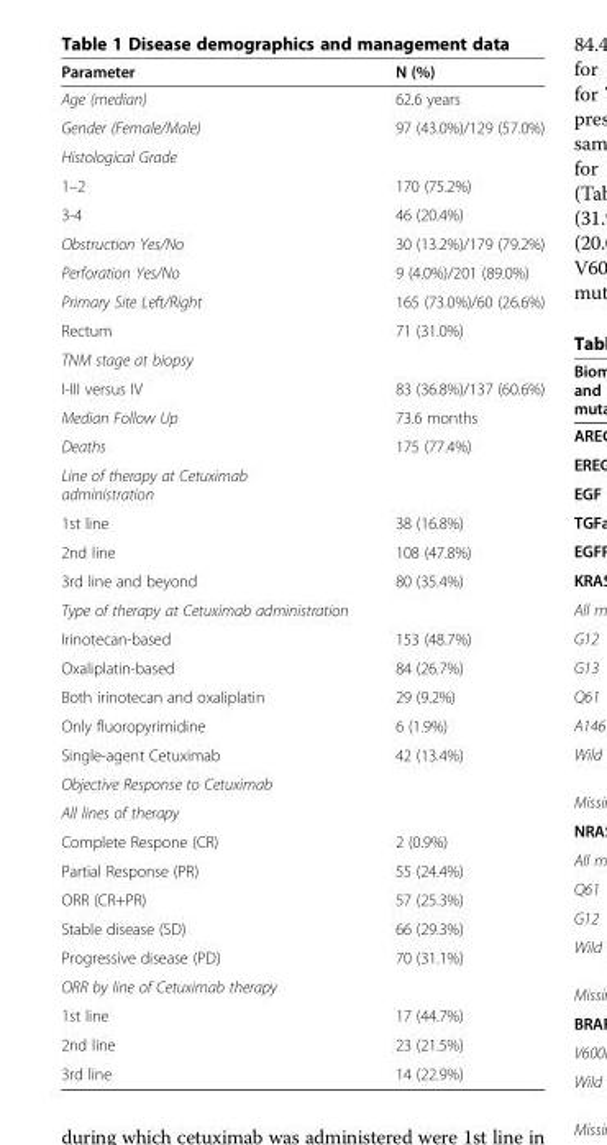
<table><thead><tr><td>Parameter</td><td>N (%)</td></tr></thead><tbody><tr><td>Age (median)</td><td>62.6 years</td></tr><tr><td>Gender (Female/Male)</td><td>97 (43.0%)/129 (57.0%)</td></tr><tr><td colspan="2">Histological Grade</td></tr><tr><td>1–2</td><td>170 (75.2%)</td></tr><tr><td>3-4</td><td>46 (20.4%)</td></tr><tr><td>Obstruction Yes/No</td><td>30 (13.2%)/179 (79.2%)</td></tr><tr><td>Perforation Yes/No</td><td>9 (4.0%)/201 (89.0%)</td></tr><tr><td>Primary Site Left/Right</td><td>165 (73.0%)/60 (26.6%)</td></tr><tr><td>Rectum</td><td>71 (31.0%)</td></tr><tr><td colspan="2">TNM stage at biopsy</td></tr><tr><td>I-III versus IV</td><td>83 (36.8%)/137 (60.6%)</td></tr><tr><td>Median Follow Up</td><td>73.6 months</td></tr><tr><td>Deaths</td><td>175 (77.4%)</td></tr><tr><td colspan="2">Line of therapy at Cetuximab administration</td></tr><tr><td>1st line</td><td>38 (16.8%)</td></tr><tr><td>2nd line</td><td>108 (47.8%)</td></tr><tr><td>3rd line and beyond</td><td>80 (35.4%)</td></tr><tr><td colspan="2">Type of therapy at Cetuximab administration</td></tr><tr><td>Irinotecan-based</td><td>153 (48.7%)</td></tr><tr><td>Oxaliplatin-based</td><td>84 (26.7%)</td></tr><tr><td>Both irinotecan and oxaliplatin</td><td>29 (9.2%)</td></tr><tr><td>Only fluoropyrimidine</td><td>6 (1.9%)</td></tr><tr><td>Single-agent Cetuximab</td><td>42 (13.4%)</td></tr><tr><td colspan="2">Objective Response to Cetuximab</td></tr><tr><td colspan="2">All lines of therapy</td></tr><tr><td>Complete Respone (CR)</td><td>2 (0.9%)</td></tr><tr><td>Partial Response (PR)</td><td>55 (24.4%)</td></tr><tr><td>ORR (CR+PR)</td><td>57 (25.3%)</td></tr><tr><td>Stable disease (SD)</td><td>66 (29.3%)</td></tr><tr><td>Progressive disease (PD)</td><td>70 (31.1%)</td></tr><tr><td colspan="2">ORR by line of Cetuximab therapy</td></tr><tr><td>1st line</td><td>17 (44.7%)</td></tr><tr><td>2nd line</td><td>23 (21.5%)</td></tr><tr><td>3rd line</td><td>14 (22.9%)</td></tr></tbody></table>